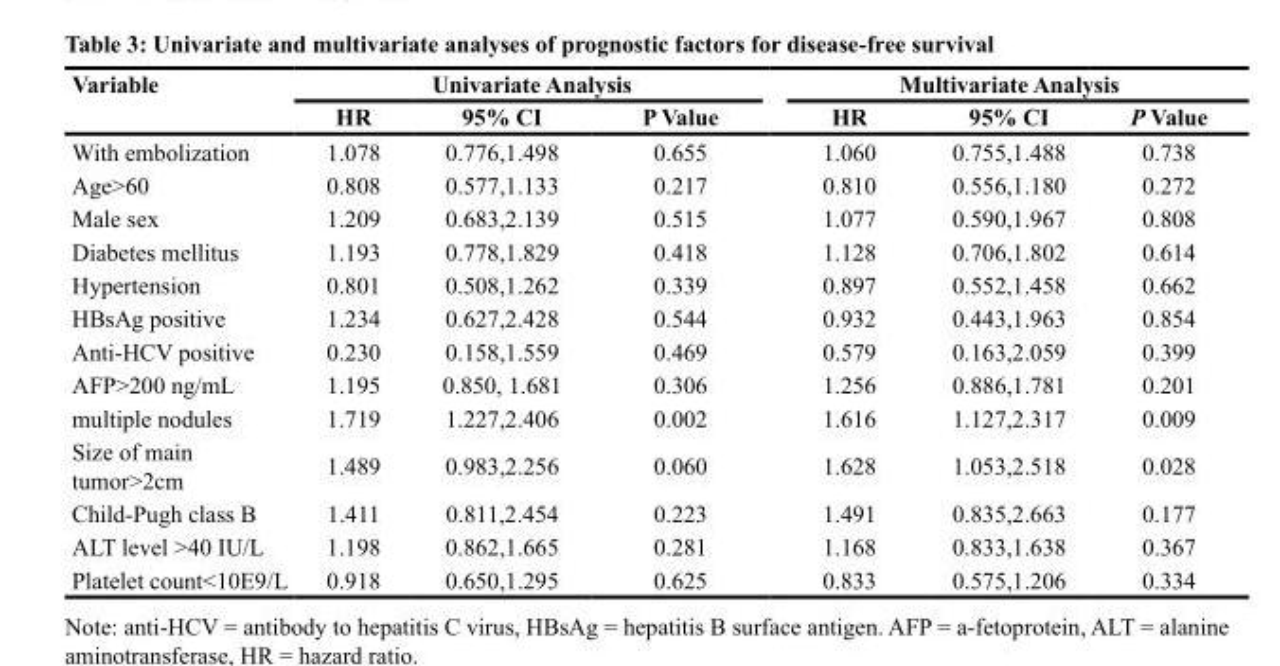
<table><thead><tr><td rowspan="2">Variable</td><td colspan="3">Univariate Analysis</td><td colspan="3">Multivariate Analysis</td></tr><tr><td>HR</td><td>95% CI</td><td>P Value</td><td>HR</td><td>95% CI</td><td>P Value</td></tr></thead><tbody><tr><td>With embolization</td><td>1.078</td><td>0.776,1.498</td><td>0.655</td><td>1.060</td><td>0.755,1.488</td><td>0.738</td></tr><tr><td>Age&gt;60</td><td>0.808</td><td>0.577,1.133</td><td>0.217</td><td>0.810</td><td>0.556,1.180</td><td>0.272</td></tr><tr><td>Male sex</td><td>1.209</td><td>0.683,2.139</td><td>0.515</td><td>1.077</td><td>0.590,1.967</td><td>0.808</td></tr><tr><td>Diabetes mellitus</td><td>1.193</td><td>0.778,1.829</td><td>0.418</td><td>1.128</td><td>0.706,1.802</td><td>0.614</td></tr><tr><td>Hypertension</td><td>0.801</td><td>0.508,1.262</td><td>0.339</td><td>0.897</td><td>0.552,1.458</td><td>0.662</td></tr><tr><td>HBsAg positive</td><td>1.234</td><td>0.627,2.428</td><td>0.544</td><td>0.932</td><td>0.443,1.963</td><td>0.854</td></tr><tr><td>Anti-HCV positive</td><td>0.230</td><td>0.158,1.559</td><td>0.469</td><td>0.579</td><td>0.163,2.059</td><td>0.399</td></tr><tr><td>AFP&gt;200 ng/mL</td><td>1.195</td><td>0.850, 1.681</td><td>0.306</td><td>1.256</td><td>0.886,1.781</td><td>0.201</td></tr><tr><td>multiple nodules</td><td>1.719</td><td>1.227,2.406</td><td>0.002</td><td>1.616</td><td>1.127,2.317</td><td>0.009</td></tr><tr><td>Size of main tumor&gt;2cm</td><td>1.489</td><td>0.983,2.256</td><td>0.060</td><td>1.628</td><td>1.053,2.518</td><td>0.028</td></tr><tr><td>Child-Pugh class B</td><td>1.411</td><td>0.811,2.454</td><td>0.223</td><td>1.491</td><td>0.835,2.663</td><td>0.177</td></tr><tr><td>ALT level &gt;40 IU/L</td><td>1.198</td><td>0.862,1.665</td><td>0.281</td><td>1.168</td><td>0.833,1.638</td><td>0.367</td></tr><tr><td>Platelet count&lt;10E9/L</td><td>0.918</td><td>0.650,1.295</td><td>0.625</td><td>0.833</td><td>0.575,1.206</td><td>0.334</td></tr></tbody></table>